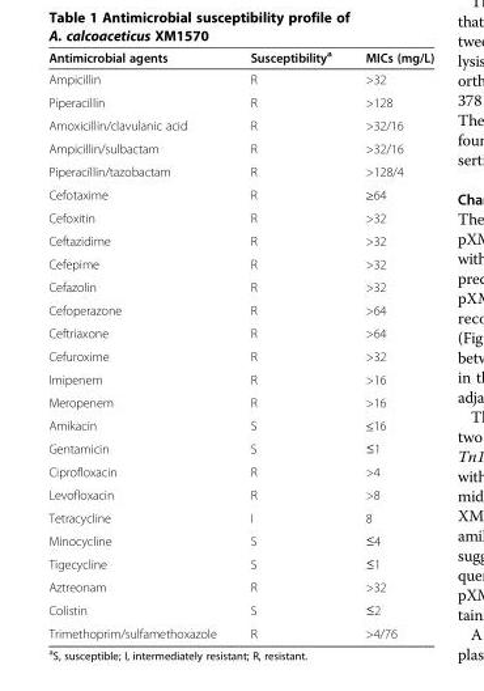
<table><thead><tr><td>Antimicrobial agents</td><td>Susceptibility<sup>a</sup></td><td>MICs (mg/L)</td></tr></thead><tbody><tr><td>Ampicillin</td><td>R</td><td>&gt;32</td></tr><tr><td>Piperacillin</td><td>R</td><td>&gt;128</td></tr><tr><td>Amoxicillin/clavulanic acid</td><td>R</td><td>&gt;32/16</td></tr><tr><td>Ampicillin/sulbactam</td><td>R</td><td>&gt;32/16</td></tr><tr><td>Piperacillin/tazobactam</td><td>R</td><td>&gt;128/4</td></tr><tr><td>Cefotaxime</td><td>R</td><td>≥64</td></tr><tr><td>Cefoxitin</td><td>R</td><td>&gt;32</td></tr><tr><td>Ceftazidime</td><td>R</td><td>&gt;32</td></tr><tr><td>Cefepime</td><td>R</td><td>&gt;32</td></tr><tr><td>Cefazolin</td><td>R</td><td>&gt;32</td></tr><tr><td>Cefoperazone</td><td>R</td><td>&gt;64</td></tr><tr><td>Ceftriaxone</td><td>R</td><td>&gt;64</td></tr><tr><td>Cefuroxime</td><td>R</td><td>&gt;32</td></tr><tr><td>Imipenem</td><td>R</td><td>&gt;16</td></tr><tr><td>Meropenem</td><td>R</td><td>&gt;16</td></tr><tr><td>Amikacin</td><td>S</td><td>≤16</td></tr><tr><td>Gentamicin</td><td>S</td><td>≤1</td></tr><tr><td>Ciprofloxacin</td><td>R</td><td>&gt;4</td></tr><tr><td>Levofloxacin</td><td>R</td><td>&gt;8</td></tr><tr><td>Tetracycline</td><td>I</td><td>8</td></tr><tr><td>Minocycline</td><td>S</td><td>≤4</td></tr><tr><td>Tigecycline</td><td>S</td><td>≤1</td></tr><tr><td>Aztreonam</td><td>R</td><td>&gt;32</td></tr><tr><td>Colistin</td><td>S</td><td>≤2</td></tr><tr><td>Trimethoprim/sulfamethoxazole</td><td>R</td><td>&gt;4/76</td></tr></tbody></table>